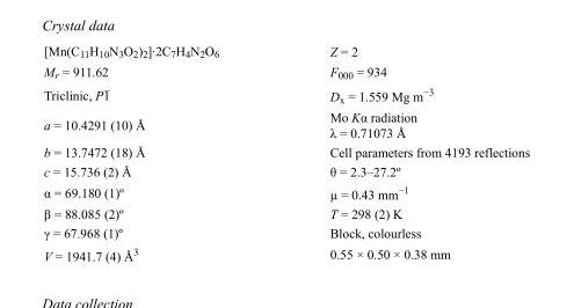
<table><tbody><tr><td>[Mn(C<sub>11</sub>H<sub>10</sub>N<sub>3</sub>O<sub>2</sub>)<sub>2</sub>]·2C<sub>7</sub>H<sub>4</sub>N<sub>2</sub>O<sub>6</sub></td><td>Z = 2</td></tr><tr><td>M<sub>r</sub> = 911.62</td><td>F<sub>000</sub> = 934</td></tr><tr><td>Triclinic, P1</td><td>D<sub>x</sub> = 1.559 Mg m<sup>−3</sup></td></tr><tr><td>a = 10.4291 (10) Å</td><td>Mo Kα radiation λ = 0.71073 Å</td></tr><tr><td>b = 13.7472 (18) Å</td><td>Cell parameters from 4193 reflections</td></tr><tr><td>c = 15.736 (2) Å</td><td>θ = 2.3–27.2º</td></tr><tr><td>α = 69.180 (1)º</td><td>µ = 0.43 mm<sup>−1</sup></td></tr><tr><td>β = 88.085 (2)º</td><td>T = 298 (2) K</td></tr><tr><td>γ = 67.968 (1)º</td><td>Block, colourless</td></tr><tr><td>V = 1941.7 (4) Å<sup>3</sup></td><td>0.55 × 0.50 × 0.38 mm</td></tr></tbody></table>